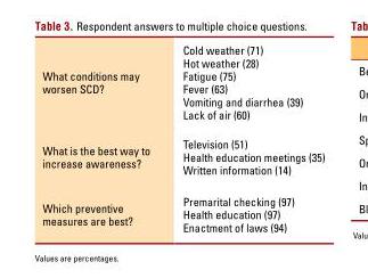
<table><tbody><tr><td>What conditions may worsen SCD?</td><td>Cold weather (71) Hot weather (28) Fatigue (75) Fever (63) Vomiting and diarrhea (39) Lack of air (60)</td></tr><tr><td>What is the best way to increase awareness?</td><td>Television (51) Health education meetings (35) Written information (14)</td></tr><tr><td>Which preventive measures are best?</td><td>Premarital checking (97) Health education (97) Enactment of laws (94)</td></tr></tbody></table>